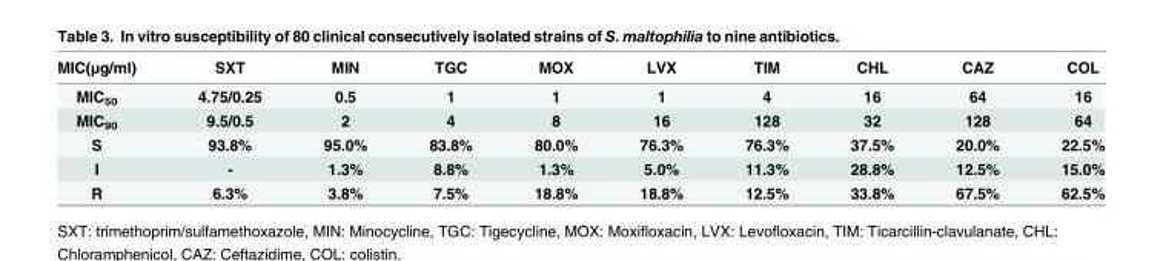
<table><thead><tr><td>MIC(μg/ml)</td><td>SXT</td><td>MIN</td><td>TGC</td><td>MOX</td><td>LVX</td><td>TIM</td><td>CHL</td><td>CAZ</td><td>COL</td></tr></thead><tbody><tr><td>MIC<sub>50</sub></td><td>4.75/0.25</td><td>0.5</td><td>1</td><td>1</td><td>1</td><td>4</td><td>16</td><td>64</td><td>16</td></tr><tr><td>MIC<sub>90</sub></td><td>9.5/0.5</td><td>2</td><td>4</td><td>8</td><td>16</td><td>128</td><td>32</td><td>128</td><td>64</td></tr><tr><td>S</td><td>93.8%</td><td>95.0%</td><td>83.8%</td><td>80.0%</td><td>76.3%</td><td>76.3%</td><td>37.5%</td><td>20.0%</td><td>22.5%</td></tr><tr><td>I</td><td>-</td><td>1.3%</td><td>8.8%</td><td>1.3%</td><td>5.0%</td><td>11.3%</td><td>28.8%</td><td>12.5%</td><td>15.0%</td></tr><tr><td>R</td><td>6.3%</td><td>3.8%</td><td>7.5%</td><td>18.8%</td><td>18.8%</td><td>12.5%</td><td>33.8%</td><td>67.5%</td><td>62.5%</td></tr></tbody></table>